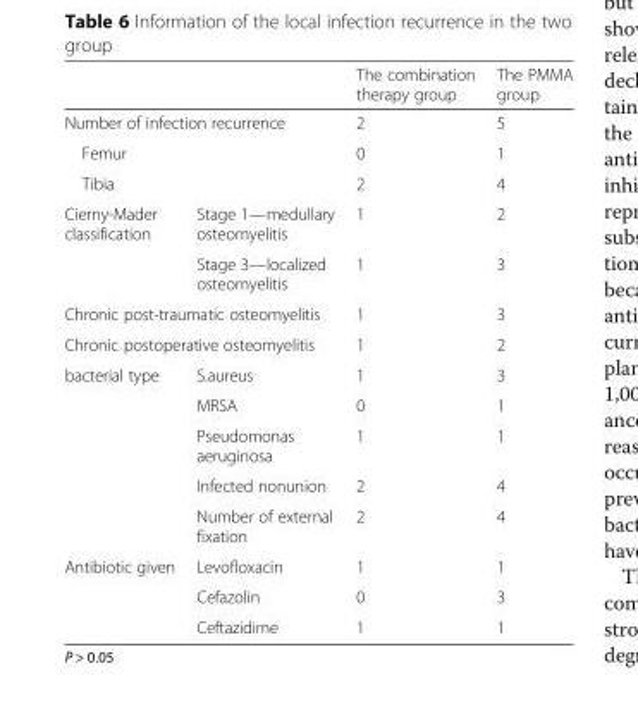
<table><thead><tr><td></td><td></td><td>The combination therapy group</td><td>The PMMA group</td></tr></thead><tbody><tr><td colspan="2">Number of infection recurrence</td><td>2</td><td>5</td></tr><tr><td colspan="2">Femur</td><td>0</td><td>1</td></tr><tr><td colspan="2">Tibia</td><td>2</td><td>4</td></tr><tr><td rowspan="2">Cierny-Mader classification</td><td>Stage 1—medullary osteomyelitis</td><td>1</td><td>2</td></tr><tr><td>Stage 3—localized osteomyelitis</td><td>1</td><td>3</td></tr><tr><td colspan="2">Chronic post-traumatic osteomyelitis</td><td>1</td><td>3</td></tr><tr><td colspan="2">Chronic postoperative osteomyelitis</td><td>1</td><td>2</td></tr><tr><td rowspan="5">bacterial type</td><td>S.aureus</td><td>1</td><td>3</td></tr><tr><td>MRSA</td><td>0</td><td>1</td></tr><tr><td>Pseudomonas aeruginosa</td><td>1</td><td>1</td></tr><tr><td>Infected nonunion</td><td>2</td><td>4</td></tr><tr><td>Number of external fixation</td><td>2</td><td>4</td></tr><tr><td rowspan="3">Antibiotic given</td><td>Levofloxacin</td><td>1</td><td>1</td></tr><tr><td>Cefazolin</td><td>0</td><td>3</td></tr><tr><td>Ceftazidime</td><td>1</td><td>1</td></tr></tbody></table>